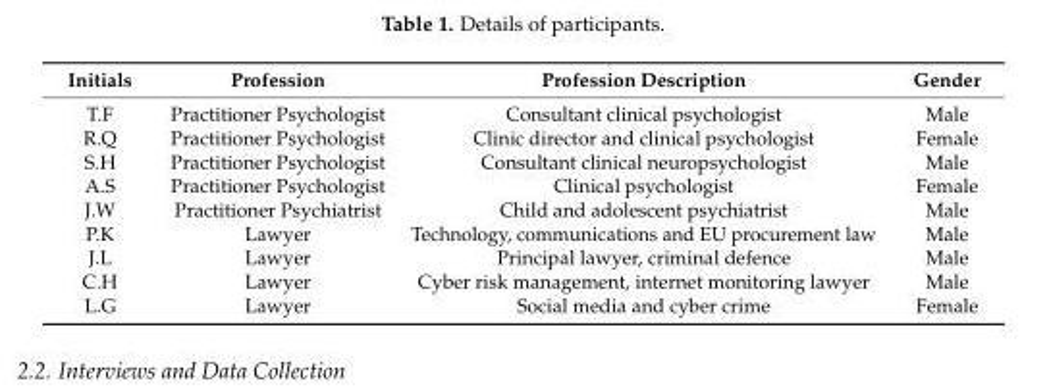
<table><thead><tr><td>Initials</td><td>Profession</td><td>Profession Description</td><td>Gender</td></tr></thead><tbody><tr><td>T.F</td><td>Practitioner Psychologist</td><td>Consultant clinical psychologist</td><td>Male</td></tr><tr><td>R.Q</td><td>Practitioner Psychologist</td><td>Clinic director and clinical psychologist</td><td>Female</td></tr><tr><td>S.H</td><td>Practitioner Psychologist</td><td>Consultant clinical neuropsychologist</td><td>Male</td></tr><tr><td>A.S</td><td>Practitioner Psychologist</td><td>Clinical psychologist</td><td>Female</td></tr><tr><td>J.W</td><td>Practitioner Psychiatrist</td><td>Child and adolescent psychiatrist</td><td>Male</td></tr><tr><td>P.K</td><td>Lawyer</td><td>Technology, communications and EU procurement law</td><td>Male</td></tr><tr><td>J.L</td><td>Lawyer</td><td>Principal lawyer, criminal defence</td><td>Male</td></tr><tr><td>C.H</td><td>Lawyer</td><td>Cyber risk management, internet monitoring lawyer</td><td>Male</td></tr><tr><td>L.G</td><td>Lawyer</td><td>Social media and cyber crime</td><td>Female</td></tr></tbody></table>